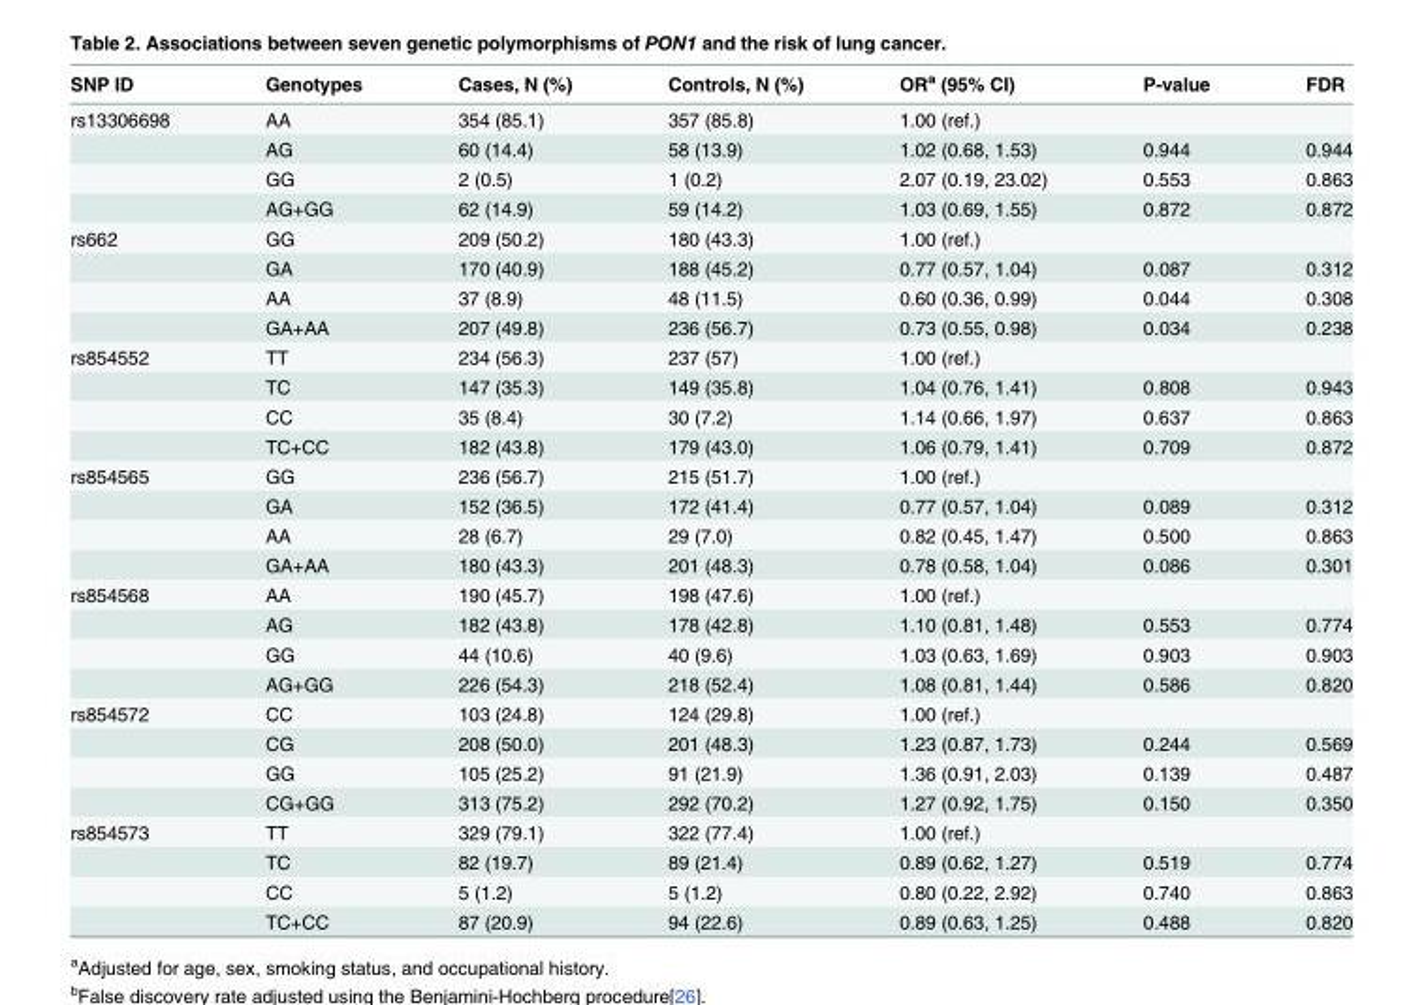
<table><thead><tr><td>SNP ID</td><td>Genotypes</td><td>Cases, N (%)</td><td>Controls, N (%)</td><td>OR<sup>a</sup> (95% CI)</td><td>P-value</td><td>FDR</td></tr></thead><tbody><tr><td rowspan="4">rs13306698</td><td>AA</td><td>354 (85.1)</td><td>357 (85.8)</td><td>1.00 (ref.)</td><td></td><td></td></tr><tr><td>AG</td><td>60 (14.4)</td><td>58 (13.9)</td><td>1.02 (0.68, 1.53)</td><td>0.944</td><td>0.944</td></tr><tr><td>GG</td><td>2 (0.5)</td><td>1 (0.2)</td><td>2.07 (0.19, 23.02)</td><td>0.553</td><td>0.863</td></tr><tr><td>AG+GG</td><td>62 (14.9)</td><td>59 (14.2)</td><td>1.03 (0.69, 1.55)</td><td>0.872</td><td>0.872</td></tr><tr><td rowspan="4">rs662</td><td>GG</td><td>209 (50.2)</td><td>180 (43.3)</td><td>1.00 (ref.)</td><td></td><td></td></tr><tr><td>GA</td><td>170 (40.9)</td><td>188 (45.2)</td><td>0.77 (0.57, 1.04)</td><td>0.087</td><td>0.312</td></tr><tr><td>AA</td><td>37 (8.9)</td><td>48 (11.5)</td><td>0.60 (0.36, 0.99)</td><td>0.044</td><td>0.308</td></tr><tr><td>GA+AA</td><td>207 (49.8)</td><td>236 (56.7)</td><td>0.73 (0.55, 0.98)</td><td>0.034</td><td>0.238</td></tr><tr><td rowspan="4">rs854552</td><td>TT</td><td>234 (56.3)</td><td>237 (57)</td><td>1.00 (ref.)</td><td></td><td></td></tr><tr><td>TC</td><td>147 (35.3)</td><td>149 (35.8)</td><td>1.04 (0.76, 1.41)</td><td>0.808</td><td>0.943</td></tr><tr><td>CC</td><td>35 (8.4)</td><td>30 (7.2)</td><td>1.14 (0.66, 1.97)</td><td>0.637</td><td>0.863</td></tr><tr><td>TC+CC</td><td>182 (43.8)</td><td>179 (43.0)</td><td>1.06 (0.79, 1.41)</td><td>0.709</td><td>0.872</td></tr><tr><td rowspan="4">rs854565</td><td>GG</td><td>236 (56.7)</td><td>215 (51.7)</td><td>1.00 (ref.)</td><td></td><td></td></tr><tr><td>GA</td><td>152 (36.5)</td><td>172 (41.4)</td><td>0.77 (0.57, 1.04)</td><td>0.089</td><td>0.312</td></tr><tr><td>AA</td><td>28 (6.7)</td><td>29 (7.0)</td><td>0.82 (0.45, 1.47)</td><td>0.500</td><td>0.863</td></tr><tr><td>GA+AA</td><td>180 (43.3)</td><td>201 (48.3)</td><td>0.78 (0.58, 1.04)</td><td>0.086</td><td>0.301</td></tr><tr><td rowspan="4">rs854568</td><td>AA</td><td>190 (45.7)</td><td>198 (47.6)</td><td>1.00 (ref.)</td><td></td><td></td></tr><tr><td>AG</td><td>182 (43.8)</td><td>178 (42.8)</td><td>1.10 (0.81, 1.48)</td><td>0.553</td><td>0.774</td></tr><tr><td>GG</td><td>44 (10.6)</td><td>40 (9.6)</td><td>1.03 (0.63, 1.69)</td><td>0.903</td><td>0.903</td></tr><tr><td>AG+GG</td><td>226 (54.3)</td><td>218 (52.4)</td><td>1.08 (0.81, 1.44)</td><td>0.586</td><td>0.820</td></tr><tr><td rowspan="4">rs854572</td><td>CC</td><td>103 (24.8)</td><td>124 (29.8)</td><td>1.00 (ref.)</td><td></td><td></td></tr><tr><td>CG</td><td>208 (50.0)</td><td>201 (48.3)</td><td>1.23 (0.87, 1.73)</td><td>0.244</td><td>0.569</td></tr><tr><td>GG</td><td>105 (25.2)</td><td>91 (21.9)</td><td>1.36 (0.91, 2.03)</td><td>0.139</td><td>0.487</td></tr><tr><td>CG+GG</td><td>313 (75.2)</td><td>292 (70.2)</td><td>1.27 (0.92, 1.75)</td><td>0.150</td><td>0.350</td></tr><tr><td rowspan="4">rs854573</td><td>TT</td><td>329 (79.1)</td><td>322 (77.4)</td><td>1.00 (ref.)</td><td></td><td></td></tr><tr><td>TC</td><td>82 (19.7)</td><td>89 (21.4)</td><td>0.89 (0.62, 1.27)</td><td>0.519</td><td>0.774</td></tr><tr><td>CC</td><td>5 (1.2)</td><td>5 (1.2)</td><td>0.80 (0.22, 2.92)</td><td>0.740</td><td>0.863</td></tr><tr><td>TC+CC</td><td>87 (20.9)</td><td>94 (22.6)</td><td>0.89 (0.63, 1.25)</td><td>0.488</td><td>0.820</td></tr></tbody></table>